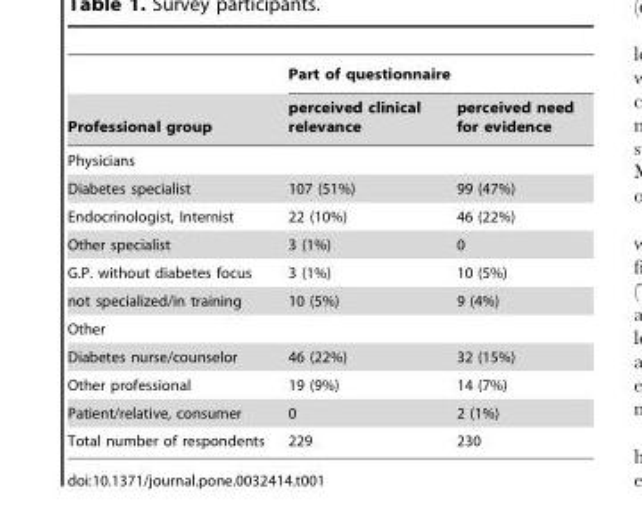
<table><thead><tr><td rowspan="2">Professional group</td><td colspan="2">Part of questionnaire</td></tr><tr><td>perceived clinical relevance</td><td>perceived need for evidence</td></tr></thead><tbody><tr><td colspan="3">Physicians</td></tr><tr><td>Diabetes specialist</td><td>107 (51%)</td><td>99 (47%)</td></tr><tr><td>Endocrinologist, Internist</td><td>22 (10%)</td><td>46 (22%)</td></tr><tr><td>Other specialist</td><td>3 (1%)</td><td>0</td></tr><tr><td>G.P. without diabetes focus</td><td>3 (1%)</td><td>10 (5%)</td></tr><tr><td>not specialized/in training</td><td>10 (5%)</td><td>9 (4%)</td></tr><tr><td colspan="3">Other</td></tr><tr><td>Diabetes nurse/counselor</td><td>46 (22%)</td><td>32 (15%)</td></tr><tr><td>Other professional</td><td>19 (9%)</td><td>14 (7%)</td></tr><tr><td>Patient/relative, consumer</td><td>0</td><td>2 (1%)</td></tr><tr><td>Total number of respondents</td><td>229</td><td>230</td></tr></tbody></table>